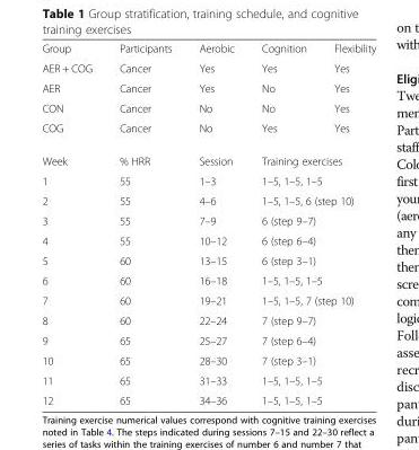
<table><tbody><tr><td>Group</td><td>Participants</td><td>Aerobic</td><td>Cognition</td><td>Flexibility</td></tr><tr><td>AER + COG</td><td>Cancer</td><td>Yes</td><td>Yes</td><td>Yes</td></tr><tr><td>AER</td><td>Cancer</td><td>Yes</td><td>No</td><td>Yes</td></tr><tr><td>CON</td><td>Cancer</td><td>No</td><td>No</td><td>Yes</td></tr><tr><td>COG</td><td>Cancer</td><td>No</td><td>Yes</td><td>Yes</td></tr><tr><td>Week</td><td>% HRR</td><td>Session</td><td colspan="2">Training exercises</td></tr><tr><td>1</td><td>55</td><td>1–3</td><td colspan="2">1–5, 1–5, 1–5</td></tr><tr><td>2</td><td>55</td><td>4–6</td><td colspan="2">1–5, 1–5, 6 (step 10)</td></tr><tr><td>3</td><td>55</td><td>7–9</td><td colspan="2">6 (step 9–7)</td></tr><tr><td>4</td><td>55</td><td>10–12</td><td colspan="2">6 (step 6–4)</td></tr><tr><td>5</td><td>60</td><td>13–15</td><td colspan="2">6 (step 3–1)</td></tr><tr><td>6</td><td>60</td><td>16–18</td><td colspan="2">1–5, 1–5, 1–5</td></tr><tr><td>7</td><td>60</td><td>19–21</td><td colspan="2">1–5, 1–5, 7 (step 10)</td></tr><tr><td>8</td><td>60</td><td>22–24</td><td colspan="2">7 (step 9–7)</td></tr><tr><td>9</td><td>65</td><td>25–27</td><td colspan="2">7 (step 6–4)</td></tr><tr><td>10</td><td>65</td><td>28–30</td><td colspan="2">7 (step 3–1)</td></tr><tr><td>11</td><td>65</td><td>31–33</td><td colspan="2">1–5, 1–5, 1–5</td></tr><tr><td>12</td><td>65</td><td>34–36</td><td colspan="2">1–5, 1–5, 1–5</td></tr></tbody></table>